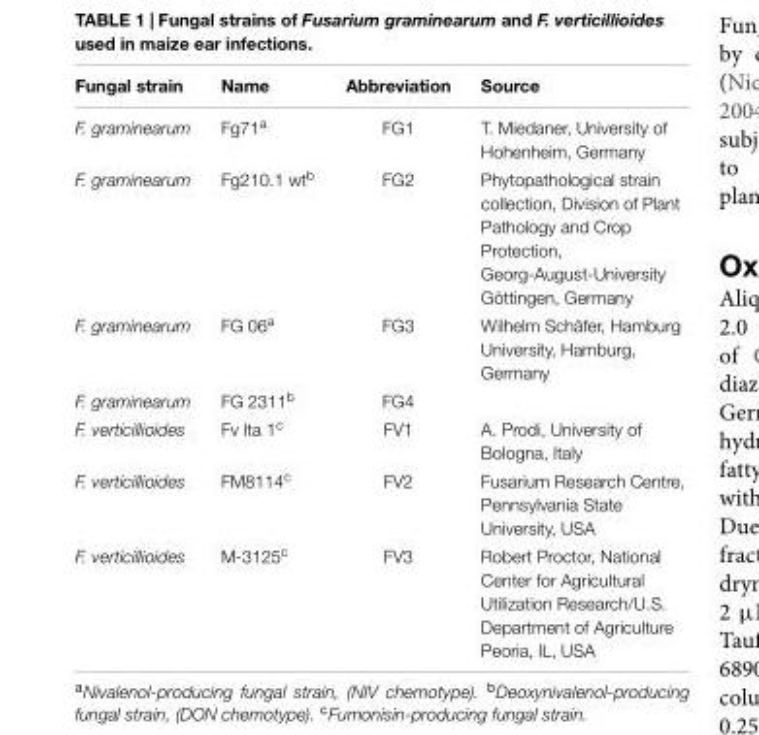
<table><thead><tr><td>Fungal strain</td><td>Name</td><td>Abbreviation</td><td>Source</td></tr></thead><tbody><tr><td>F. graminearum</td><td>Fg71<sup>a</sup></td><td>FG1</td><td>T. Miedaner, University of Hohenheim, Germany</td></tr><tr><td>F. graminearum</td><td>Fg210.1 wt<sup>b</sup></td><td>FG2</td><td>Phytopathological strain collection, Division of Plant Pathology and Crop Protection, Georg-August-University Göttingen, Germany</td></tr><tr><td>F. graminearum</td><td>FG 06<sup>a</sup></td><td>FG3</td><td>Wilhelm Schäfer, Hamburg University, Hamburg, Germany</td></tr><tr><td>F. graminearum</td><td>FG 2311<sup>b</sup></td><td>FG4</td><td></td></tr><tr><td>F. verticillioides</td><td>Fv Ita 1<sup>c</sup></td><td>FV1</td><td>A. Prodi, University of Bologna, Italy</td></tr><tr><td>F. verticillioides</td><td>FM8114<sup>c</sup></td><td>FV2</td><td>Fusarium Research Centre, Pennsylvania State University, USA</td></tr><tr><td>F. verticillioides</td><td>M-3125<sup>c</sup></td><td>FV3</td><td>Robert Proctor, National Center for Agricultural Utilization Research/U.S. Department of Agriculture Peoria, IL, USA</td></tr></tbody></table>